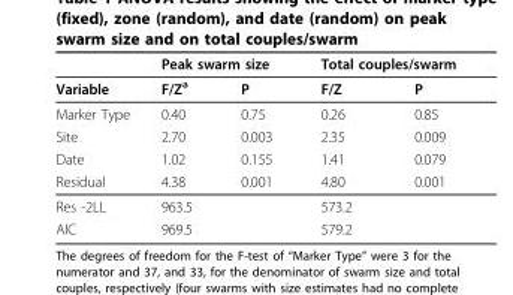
<table><thead><tr><td rowspan="2">Variable</td><td colspan="2">Peak swarm size</td><td colspan="2">Total couples/swarm</td></tr><tr><td>F/Z<sup>a</sup></td><td>P</td><td>F/Z</td><td>P</td></tr></thead><tbody><tr><td>Marker Type</td><td>0.40</td><td>0.75</td><td>0.26</td><td>0.85</td></tr><tr><td>Site</td><td>2.70</td><td>0.003</td><td>2.35</td><td>0.009</td></tr><tr><td>Date</td><td>1.02</td><td>0.155</td><td>1.41</td><td>0.079</td></tr><tr><td>Residual</td><td>4.38</td><td>0.001</td><td>4.80</td><td>0.001</td></tr><tr><td>Res -2LL</td><td>963.5</td><td></td><td>573.2</td><td></td></tr><tr><td>AIC</td><td>969.5</td><td></td><td>579.2</td><td></td></tr></tbody></table>